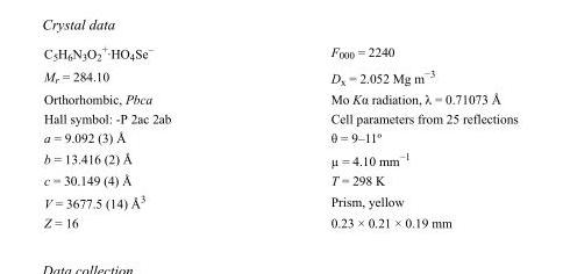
<table><tbody><tr><td>C<sub>5</sub>H<sub>6</sub>N<sub>3</sub>O<sub>2</sub> <sup>+</sup>·HO<sub>4</sub>Se<sup>–</sup></td><td>F000 = 2240</td></tr><tr><td>M<sub>r</sub> = 284.10</td><td>D<sub>x</sub> = 2.052 Mg m<sup>−3</sup></td></tr><tr><td>Orthorhombic, Pbca</td><td>Mo Kα radiation, λ = 0.71073 Å</td></tr><tr><td>Hall symbol: -P 2ac 2ab</td><td>Cell parameters from 25 reflections</td></tr><tr><td>a = 9.092 (3) Å</td><td>θ = 9–11º</td></tr><tr><td>b = 13.416 (2) Å</td><td>µ = 4.10 mm<sup>−1</sup></td></tr><tr><td>c = 30.149 (4) Å</td><td>T = 298 K</td></tr><tr><td>V = 3677.5 (14) Å<sup>3</sup></td><td>Prism, yellow</td></tr><tr><td>Z = 16</td><td>0.23 × 0.21 × 0.19 mm</td></tr></tbody></table>